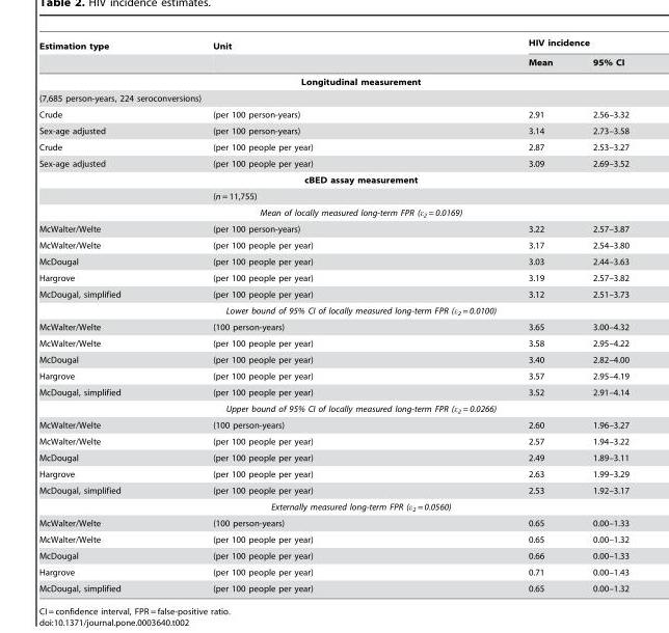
<table><thead><tr><td rowspan="2">Estimation type</td><td rowspan="2">Unit</td><td colspan="2">HIV incidence</td></tr><tr><td>Mean</td><td>95% CI</td></tr></thead><tbody><tr><td colspan="4">Longitudinal measurement</td></tr><tr><td colspan="4">(7,685 person-years, 224 seroconversions)</td></tr><tr><td>Crude</td><td>(per 100 person-years)</td><td>2.91</td><td>2.56–3.32</td></tr><tr><td>Sex-age adjusted</td><td>(per 100 person-years)</td><td>3.14</td><td>2.73–3.58</td></tr><tr><td>Crude</td><td>(per 100 people per year)</td><td>2.87</td><td>2.53–3.27</td></tr><tr><td>Sex-age adjusted</td><td>(per 100 people per year)</td><td>3.09</td><td>2.69–3.52</td></tr><tr><td colspan="4">cBED assay measurement</td></tr><tr><td></td><td>(n = 11,755)</td><td></td><td></td></tr><tr><td colspan="4">Mean of locally measured long-term FPR (ε<sub>2</sub> = 0.0169)</td></tr><tr><td>McWalter/Welte</td><td>(per 100 person-years)</td><td>3.22</td><td>2.57–3.87</td></tr><tr><td>McWalter/Welte</td><td>(per 100 people per year)</td><td>3.17</td><td>2.54–3.80</td></tr><tr><td>McDougal</td><td>(per 100 people per year)</td><td>3.03</td><td>2.44–3.63</td></tr><tr><td>Hargrove</td><td>(per 100 people per year)</td><td>3.19</td><td>2.57–3.82</td></tr><tr><td>McDougal, simplified</td><td>(per 100 people per year)</td><td>3.12</td><td>2.51–3.73</td></tr><tr><td colspan="4">Lower bound of 95% CI of locally measured long-term FPR (ε<sub>2</sub> = 0.0100)</td></tr><tr><td>McWalter/Welte</td><td>(100 person-years)</td><td>3.65</td><td>3.00–4.32</td></tr><tr><td>McWalter/Welte</td><td>(per 100 people per year)</td><td>3.58</td><td>2.95–4.22</td></tr><tr><td>McDougal</td><td>(per 100 people per year)</td><td>3.40</td><td>2.82–4.00</td></tr><tr><td>Hargrove</td><td>(per 100 people per year)</td><td>3.57</td><td>2.95–4.19</td></tr><tr><td>McDougal, simplified</td><td>(per 100 people per year)</td><td>3.52</td><td>2.91–4.14</td></tr><tr><td colspan="4">Upper bound of 95% CI of locally measured long-term FPR (ε<sub>2</sub> = 0.0266)</td></tr><tr><td>McWalter/Welte</td><td>(100 person-years)</td><td>2.60</td><td>1.96–3.27</td></tr><tr><td>McWalter/Welte</td><td>(per 100 people per year)</td><td>2.57</td><td>1.94–3.22</td></tr><tr><td>McDougal</td><td>(per 100 people per year)</td><td>2.49</td><td>1.89–3.11</td></tr><tr><td>Hargrove</td><td>(per 100 people per year)</td><td>2.63</td><td>1.99–3.29</td></tr><tr><td>McDougal, simplified</td><td>(per 100 people per year)</td><td>2.53</td><td>1.92–3.17</td></tr><tr><td colspan="4">Externally measured long-term FPR (ε<sub>2</sub> = 0.0560)</td></tr><tr><td>McWalter/Welte</td><td>(100 person-years)</td><td>0.65</td><td>0.00–1.33</td></tr><tr><td>McWalter/Welte</td><td>(per 100 people per year)</td><td>0.65</td><td>0.00–1.32</td></tr><tr><td>McDougal</td><td>(per 100 people per year)</td><td>0.66</td><td>0.00–1.33</td></tr><tr><td>Hargrove</td><td>(per 100 people per year)</td><td>0.71</td><td>0.00–1.43</td></tr><tr><td>McDougal, simplified</td><td>(per 100 people per year)</td><td>0.65</td><td>0.00–1.32</td></tr></tbody></table>